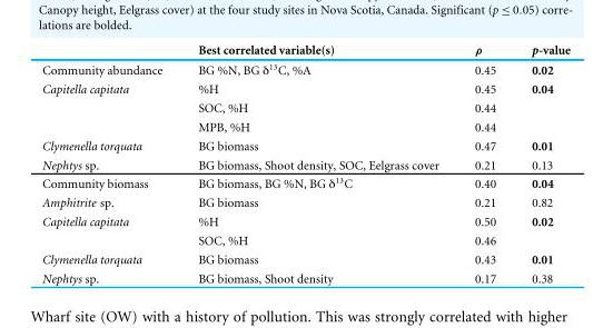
<table><thead><tr><td></td><td>Best correlated variable(s)</td><td>ρ</td><td>p-value</td></tr></thead><tbody><tr><td>Community abundance</td><td>BG %N, BG δ<sup>13</sup>C, %A</td><td>0.45</td><td>0.02</td></tr><tr><td rowspan="3">Capitella capitata</td><td>%H</td><td>0.45</td><td>0.04</td></tr><tr><td>SOC, %H</td><td>0.44</td><td></td></tr><tr><td>MPB, %H</td><td>0.44</td><td></td></tr><tr><td>Clymenella torquata</td><td>BG biomass</td><td>0.47</td><td>0.01</td></tr><tr><td>Nephtys sp.</td><td>BG biomass, Shoot density, SOC, Eelgrass cover</td><td>0.21</td><td>0.13</td></tr><tr><td>Community biomass</td><td>BG biomass, BG %N, BG δ<sup>13</sup>C</td><td>0.40</td><td>0.04</td></tr><tr><td>Amphitrite sp.</td><td>BG biomass</td><td>0.21</td><td>0.82</td></tr><tr><td rowspan="2">Capitella capitata</td><td>%H</td><td>0.50</td><td>0.02</td></tr><tr><td>SOC, %H</td><td>0.46</td><td></td></tr><tr><td>Clymenella torquata</td><td>BG biomass</td><td>0.43</td><td>0.01</td></tr><tr><td>Nephtys sp.</td><td>BG biomass, Shoot density</td><td>0.17</td><td>0.38</td></tr></tbody></table>